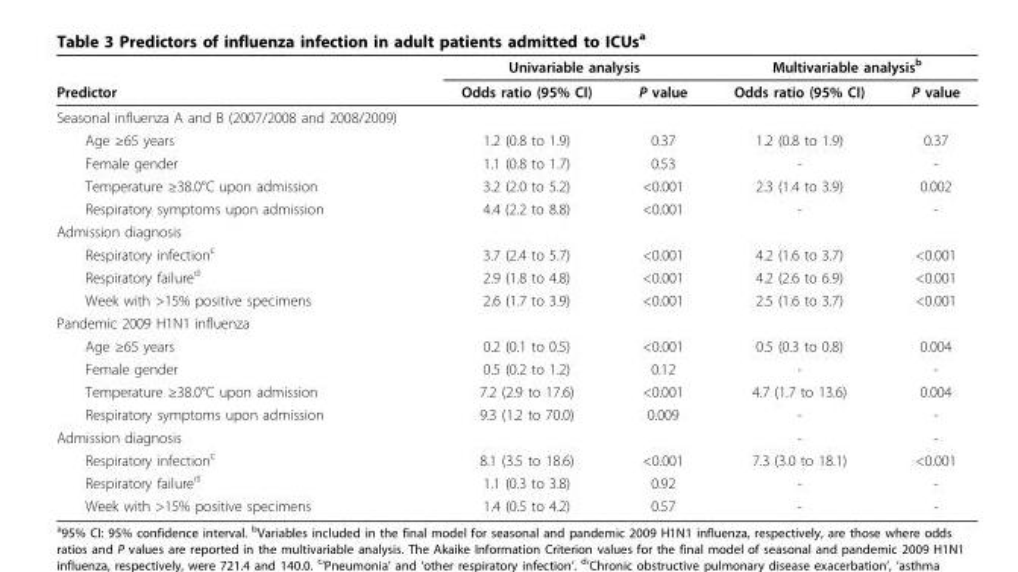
<table><thead><tr><td rowspan="2">Predictor</td><td colspan="2">Univariable analysis</td><td colspan="2">Multivariable analysis<sup>b</sup></td></tr><tr><td>Odds ratio (95% CI)</td><td>P value</td><td>Odds ratio (95% CI)</td><td>P value</td></tr></thead><tbody><tr><td colspan="5">Seasonal influenza A and B (2007/2008 and 2008/2009)</td></tr><tr><td>Age ≥65 years</td><td>1.2 (0.8 to 1.9)</td><td>0.37</td><td>1.2 (0.8 to 1.9)</td><td>0.37</td></tr><tr><td>Female gender</td><td>1.1 (0.8 to 1.7)</td><td>0.53</td><td>-</td><td>-</td></tr><tr><td>Temperature ≥38.0°C upon admission</td><td>3.2 (2.0 to 5.2)</td><td>&lt;0.001</td><td>2.3 (1.4 to 3.9)</td><td>0.002</td></tr><tr><td>Respiratory symptoms upon admission</td><td>4.4 (2.2 to 8.8)</td><td>&lt;0.001</td><td>-</td><td>-</td></tr><tr><td colspan="5">Admission diagnosis</td></tr><tr><td>Respiratory infection<sup>c</sup></td><td>3.7 (2.4 to 5.7)</td><td>&lt;0.001</td><td>4.2 (1.6 to 3.7)</td><td>&lt;0.001</td></tr><tr><td>Respiratory failure<sup>d</sup></td><td>2.9 (1.8 to 4.8)</td><td>&lt;0.001</td><td>4.2 (2.6 to 6.9)</td><td>&lt;0.001</td></tr><tr><td>Week with &gt;15% positive specimens</td><td>2.6 (1.7 to 3.9)</td><td>&lt;0.001</td><td>2.5 (1.6 to 3.7)</td><td>&lt;0.001</td></tr><tr><td colspan="5">Pandemic 2009 H1N1 influenza</td></tr><tr><td>Age ≥65 years</td><td>0.2 (0.1 to 0.5)</td><td>&lt;0.001</td><td>0.5 (0.3 to 0.8)</td><td>0.004</td></tr><tr><td>Female gender</td><td>0.5 (0.2 to 1.2)</td><td>0.12</td><td>-</td><td>-</td></tr><tr><td>Temperature ≥38.0°C upon admission</td><td>7.2 (2.9 to 17.6)</td><td>&lt;0.001</td><td>4.7 (1.7 to 13.6)</td><td>0.004</td></tr><tr><td>Respiratory symptoms upon admission</td><td>9.3 (1.2 to 70.0)</td><td>0.009</td><td>-</td><td>-</td></tr><tr><td>Admission diagnosis</td><td></td><td></td><td>-</td><td>-</td></tr><tr><td>Respiratory infection<sup>c</sup></td><td>8.1 (3.5 to 18.6)</td><td>&lt;0.001</td><td>7.3 (3.0 to 18.1)</td><td>&lt;0.001</td></tr><tr><td>Respiratory failure<sup>d</sup></td><td>1.1 (0.3 to 3.8)</td><td>0.92</td><td>-</td><td>-</td></tr><tr><td>Week with &gt;15% positive specimens</td><td>1.4 (0.5 to 4.2)</td><td>0.57</td><td>-</td><td>-</td></tr></tbody></table>